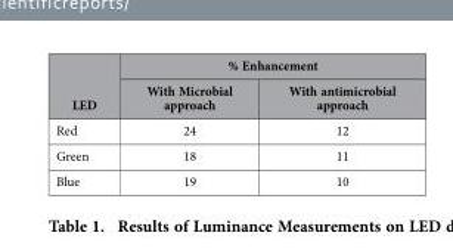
<table><thead><tr><td rowspan="2">LED</td><td colspan="2">% Enhancement</td></tr><tr><td>With Microbial approach</td><td>With antimicrobial approach</td></tr></thead><tbody><tr><td>Red</td><td>24</td><td>12</td></tr><tr><td>Green</td><td>18</td><td>11</td></tr><tr><td>Blue</td><td>19</td><td>10</td></tr></tbody></table>